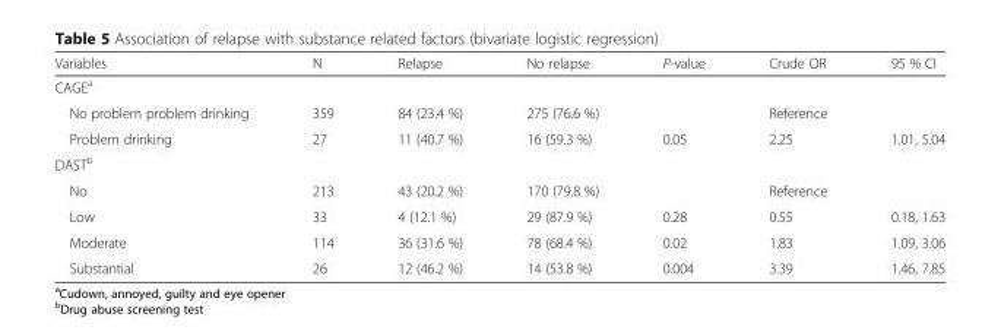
<table><thead><tr><td>Variables</td><td>N</td><td>Relapse</td><td>No relapse</td><td>P-value</td><td>Crude OR</td><td>95 % CI</td></tr></thead><tbody><tr><td colspan="7">CAGE<sup>a</sup></td></tr><tr><td>No problem problem drinking</td><td>359</td><td>84 (23.4 %)</td><td>275 (76.6 %)</td><td></td><td>Reference</td><td></td></tr><tr><td>Problem drinking</td><td>27</td><td>11 (40.7 %)</td><td>16 (59.3 %)</td><td>0.05</td><td>2.25</td><td>1.01, 5.04</td></tr><tr><td colspan="7">DAST<sup>b</sup></td></tr><tr><td>No</td><td>213</td><td>43 (20.2 %)</td><td>170 (79.8 %)</td><td></td><td>Reference</td><td></td></tr><tr><td>Low</td><td>33</td><td>4 (12.1 %)</td><td>29 (87.9 %)</td><td>0.28</td><td>0.55</td><td>0.18, 1.63</td></tr><tr><td>Moderate</td><td>114</td><td>36 (31.6 %)</td><td>78 (68.4 %)</td><td>0.02</td><td>1.83</td><td>1.09, 3.06</td></tr><tr><td>Substantial</td><td>26</td><td>12 (46.2 %)</td><td>14 (53.8 %)</td><td>0.004</td><td>3.39</td><td>1.46, 7.85</td></tr></tbody></table>